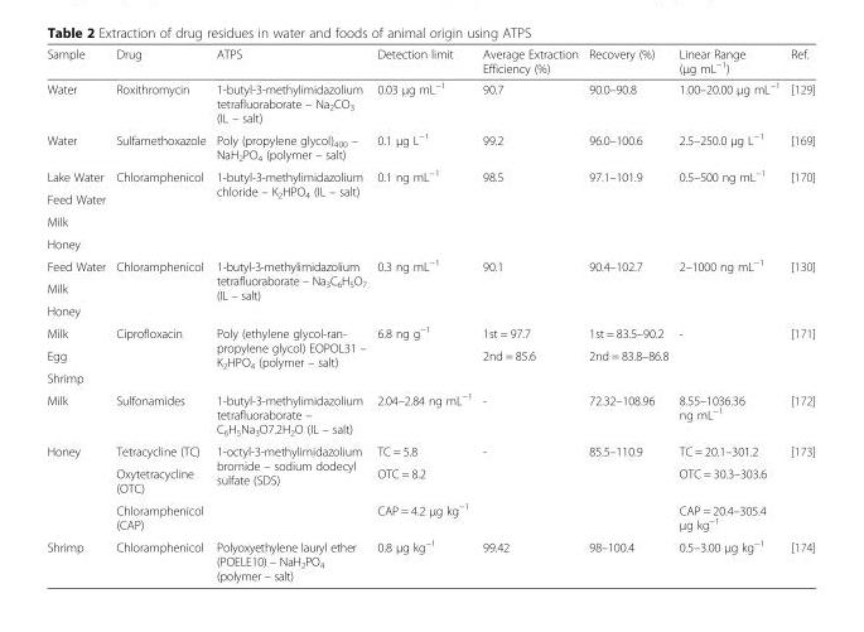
<table><thead><tr><td>Sample</td><td>Drug</td><td>ATPS</td><td>Detection limit</td><td>Average Extraction Efficiency (%)</td><td>Recovery (%)</td><td>Linear Range (μg mL<sup>−1</sup>)</td><td>Ref.</td></tr></thead><tbody><tr><td>Water</td><td>Roxithromycin</td><td>1-butyl-3-methylimidazolium tetrafluoraborate – Na<sub>2</sub>CO<sub>3</sub> (IL – salt)</td><td>0.03 μg mL<sup>−1</sup></td><td>90.7</td><td>90.0–90.8</td><td>1.00–20.00 μg mL<sup>−1</sup></td><td>[129]</td></tr><tr><td>Water</td><td>Sulfamethoxazole</td><td>Poly (propylene glycol)<sub>400</sub> – NaH<sub>2</sub>PO<sub>4</sub> (polymer – salt)</td><td>0.1 μg L<sup>−1</sup></td><td>99.2</td><td>96.0–100.6</td><td>2.5–250.0 μg L<sup>−1</sup></td><td>[169]</td></tr><tr><td>Lake Water</td><td rowspan="4">Chloramphenicol</td><td rowspan="4">1-butyl-3-methylimidazolium chloride – K<sub>2</sub>HPO<sub>4</sub> (IL – salt)</td><td rowspan="4">0.1 ng mL<sup>−1</sup></td><td rowspan="4">98.5</td><td rowspan="4">97.1–101.9</td><td rowspan="4">0.5–500 ng mL<sup>−1</sup></td><td rowspan="4">[170]</td></tr><tr><td>Feed Water</td></tr><tr><td>Milk</td></tr><tr><td>Honey</td></tr><tr><td>Feed Water</td><td rowspan="3">Chloramphenicol</td><td rowspan="3">1-butyl-3-methylimidazolium tetrafluoraborate – Na<sub>3</sub>C<sub>6</sub>H<sub>5</sub>O<sub>7</sub> (IL – salt)</td><td rowspan="3">0.3 ng mL<sup>−1</sup></td><td rowspan="3">90.1</td><td rowspan="3">90.4–102.7</td><td rowspan="3">2–1000 ng mL<sup>−1</sup></td><td rowspan="3">[130]</td></tr><tr><td>Milk</td></tr><tr><td>Honey</td></tr><tr><td>Milk</td><td rowspan="3">Ciprofloxacin</td><td rowspan="3">Poly (ethylene glycol-ran- propylene glycol) EOPOL31 – K<sub>2</sub>HPO<sub>4</sub> (polymer – salt)</td><td rowspan="3">6.8 ng g<sup>−1</sup></td><td>1st = 97.7</td><td>1st = 83.5–90.2</td><td rowspan="3">-</td><td rowspan="3">[171]</td></tr><tr><td>Egg</td><td rowspan="2">2nd = 85.6</td><td rowspan="2">2nd = 83.8–86.8</td></tr><tr><td>Shrimp</td></tr><tr><td>Milk</td><td>Sulfonamides</td><td>1-butyl-3-methylimidazolium tetrafluoraborate – C<sub>6</sub>H<sub>5</sub>Na<sub>3</sub>O7.2H<sub>2</sub>O (IL – salt)</td><td>2.04–2.84 ng mL<sup>−1</sup></td><td>-</td><td>72.32–108.96</td><td>8.55–1036.36 ng mL<sup>−1</sup></td><td>[172]</td></tr><tr><td rowspan="3">Honey</td><td>Tetracycline (TC)</td><td rowspan="3">1-octyl-3-methylimidazolium bromide – sodium dodecyl sulfate (SDS)</td><td>TC = 5.8</td><td rowspan="3">-</td><td rowspan="3">85.5–110.9</td><td>TC = 20.1–301.2</td><td rowspan="3">[173]</td></tr><tr><td>Oxytetracycline (OTC)</td><td>OTC = 8.2</td><td>OTC = 30.3–303.6</td></tr><tr><td>Chloramphenicol (CAP)</td><td>CAP = 4.2 μg kg<sup>−1</sup></td><td>CAP = 20.4–305.4 μg kg<sup>−1</sup></td></tr><tr><td>Shrimp</td><td>Chloramphenicol</td><td>Polyoxyethylene lauryl ether (POELE10) – NaH<sub>2</sub>PO<sub>4</sub> (polymer – salt)</td><td>0.8 μg kg<sup>−1</sup></td><td>99.42</td><td>98–100.4</td><td>0.5–3.00 μg kg<sup>−1</sup></td><td>[174]</td></tr></tbody></table>